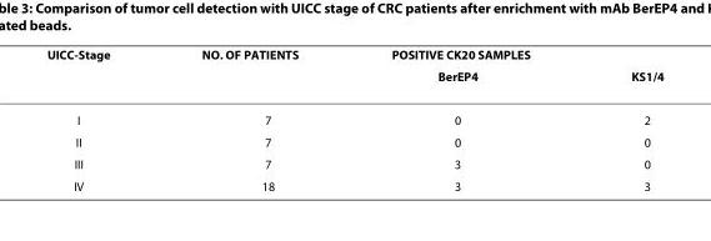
<table><thead><tr><td rowspan="2">UICC-Stage</td><td rowspan="2">NO. OF PATIENTS</td><td colspan="2">POSITIVE CK20 SAMPLES</td></tr><tr><td>BerEP4</td><td>KS1/4</td></tr></thead><tbody><tr><td>I</td><td>7</td><td>0</td><td>2</td></tr><tr><td>II</td><td>7</td><td>0</td><td>0</td></tr><tr><td>III</td><td>7</td><td>3</td><td>0</td></tr><tr><td>IV</td><td>18</td><td>3</td><td>3</td></tr></tbody></table>